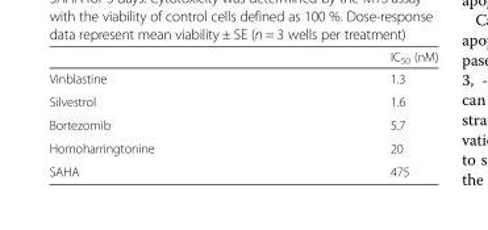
<table><thead><tr><td></td><td>IC<sub>50</sub> (nM)</td></tr></thead><tbody><tr><td>Vinblastine</td><td>1.3</td></tr><tr><td>Silvestrol</td><td>1.6</td></tr><tr><td>Bortezomib</td><td>5.7</td></tr><tr><td>Homoharringtonine</td><td>20</td></tr><tr><td>SAHA</td><td>475</td></tr></tbody></table>